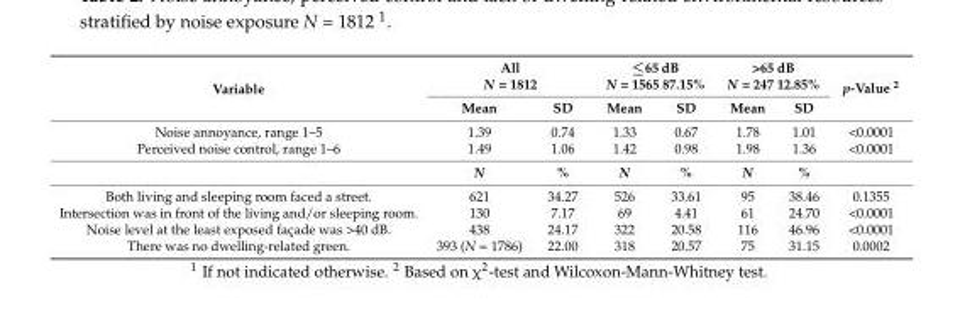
<table><thead><tr><td rowspan="2">Variable</td><td colspan="2">All N = 1812</td><td colspan="2">≤65 dB N = 1565 87.15%</td><td colspan="2">&gt;65 dB N = 247 12.85%</td><td rowspan="2">p-Value <sup>2</sup></td></tr><tr><td>Mean</td><td>SD</td><td>Mean</td><td>SD</td><td>Mean</td><td>SD</td></tr></thead><tbody><tr><td>Noise annoyance, range 1–5</td><td>1.39</td><td>0.74</td><td>1.33</td><td>0.67</td><td>1.78</td><td>1.01</td><td>&lt;0.0001</td></tr><tr><td rowspan="2">Perceived noise control, range 1–6</td><td>1.49</td><td>1.06</td><td>1.42</td><td>0.98</td><td>1.98</td><td>1.36</td><td>&lt;0.0001</td></tr><tr><td>N</td><td>%</td><td>N</td><td>%</td><td>N</td><td>%</td><td></td></tr><tr><td>Both living and sleeping room faced a street.</td><td>621</td><td>34.27</td><td>526</td><td>33.61</td><td>95</td><td>38.46</td><td>0.1355</td></tr><tr><td>Intersection was in front of the living and/or sleeping room.</td><td>130</td><td>7.17</td><td>69</td><td>4.41</td><td>61</td><td>24.70</td><td>&lt;0.0001</td></tr><tr><td>Noise level at the least exposed façade was &gt;40 dB.</td><td>438</td><td>24.17</td><td>322</td><td>20.58</td><td>116</td><td>46.96</td><td>&lt;0.0001</td></tr><tr><td>There was no dwelling-related green.</td><td>393 (N = 1786)</td><td>22.00</td><td>318</td><td>20.57</td><td>75</td><td>31.15</td><td>0.0002</td></tr></tbody></table>